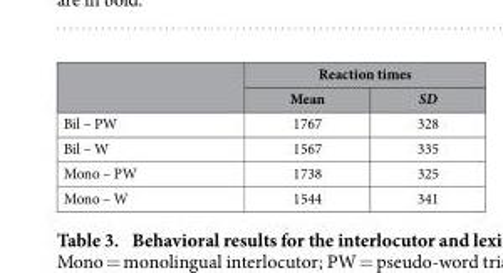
<table><thead><tr><td rowspan="2"></td><td colspan="2">Reaction times</td></tr><tr><td>Mean</td><td>SD</td></tr></thead><tbody><tr><td>Bil – PW</td><td>1767</td><td>328</td></tr><tr><td>Bil – W</td><td>1567</td><td>335</td></tr><tr><td>Mono – PW</td><td>1738</td><td>325</td></tr><tr><td>Mono – W</td><td>1544</td><td>341</td></tr></tbody></table>